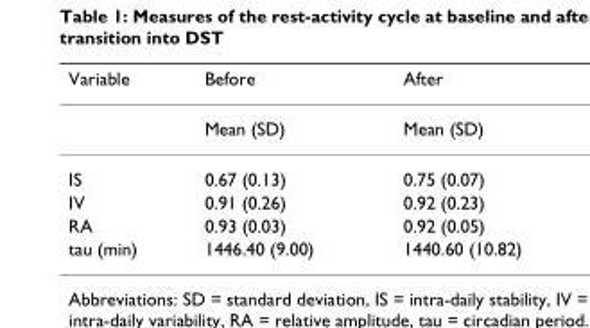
<table><thead><tr><td>Variable</td><td>Before</td><td>After</td></tr></thead><tbody><tr><td></td><td>Mean (SD)</td><td>Mean (SD)</td></tr><tr><td>IS</td><td>0.67 (0.13)</td><td>0.75 (0.07)</td></tr><tr><td>IV</td><td>0.91 (0.26)</td><td>0.92 (0.23)</td></tr><tr><td>RA</td><td>0.93 (0.03)</td><td>0.92 (0.05)</td></tr><tr><td>tau (min)</td><td>1446.40 (9.00)</td><td>1440.60 (10.82)</td></tr></tbody></table>